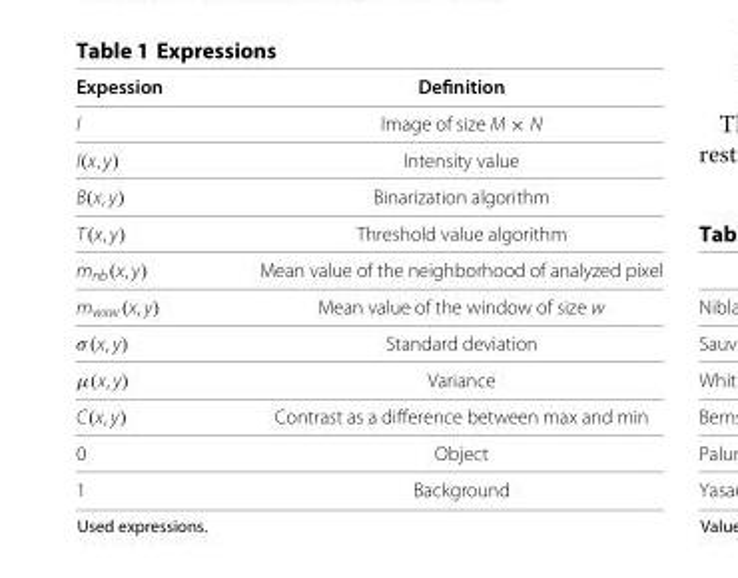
<table><thead><tr><td>Expession</td><td>Definition</td></tr></thead><tbody><tr><td>I</td><td>Image of size M × N</td></tr><tr><td>I(x, y)</td><td>Intensity value</td></tr><tr><td>B(x, y)</td><td>Binarization algorithm</td></tr><tr><td>T(x, y)</td><td>Threshold value algorithm</td></tr><tr><td>m<sub>nb</sub>(x, y)</td><td>Mean value of the neighborhood of analyzed pixel</td></tr><tr><td>m<sub>wxw</sub>(x, y)</td><td>Mean value of the window of size w</td></tr><tr><td>σ(x, y)</td><td>Standard deviation</td></tr><tr><td>μ(x, y)</td><td>Variance</td></tr><tr><td>C(x, y)</td><td>Contrast as a difference between max and min</td></tr><tr><td>0</td><td>Object</td></tr><tr><td>1</td><td>Background</td></tr></tbody></table>